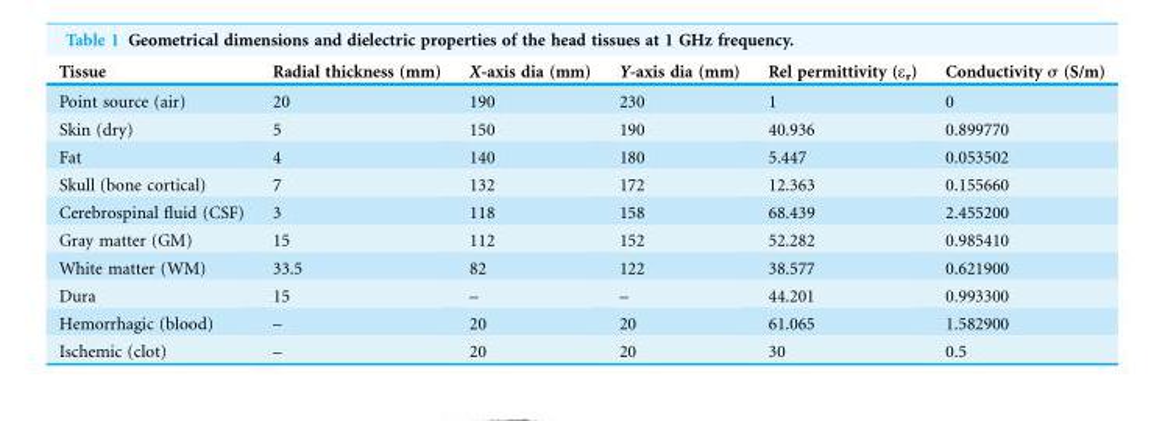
<table><thead><tr><td>Tissue</td><td>Radial thickness (mm)</td><td>X-axis dia (mm)</td><td>Y-axis dia (mm)</td><td>Rel permittivity (ε<sub>r</sub>)</td><td>Conductivity σ (S/m)</td></tr></thead><tbody><tr><td>Point source (air)</td><td>20</td><td>190</td><td>230</td><td>1</td><td>0</td></tr><tr><td>Skin (dry)</td><td>5</td><td>150</td><td>190</td><td>40.936</td><td>0.899770</td></tr><tr><td>Fat</td><td>4</td><td>140</td><td>180</td><td>5.447</td><td>0.053502</td></tr><tr><td>Skull (bone cortical)</td><td>7</td><td>132</td><td>172</td><td>12.363</td><td>0.155660</td></tr><tr><td>Cerebrospinal fluid (CSF)</td><td>3</td><td>118</td><td>158</td><td>68.439</td><td>2.455200</td></tr><tr><td>Gray matter (GM)</td><td>15</td><td>112</td><td>152</td><td>52.282</td><td>0.985410</td></tr><tr><td>White matter (WM)</td><td>33.5</td><td>82</td><td>122</td><td>38.577</td><td>0.621900</td></tr><tr><td>Dura</td><td>15</td><td>–</td><td>–</td><td>44.201</td><td>0.993300</td></tr><tr><td>Hemorrhagic (blood)</td><td>–</td><td>20</td><td>20</td><td>61.065</td><td>1.582900</td></tr><tr><td>Ischemic (clot)</td><td>–</td><td>20</td><td>20</td><td>30</td><td>0.5</td></tr></tbody></table>